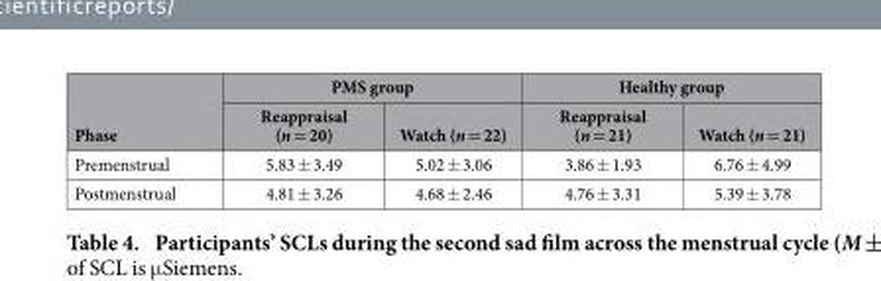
<table><thead><tr><td rowspan="2">Phase</td><td colspan="2">PMS group</td><td colspan="2">Healthy group</td></tr><tr><td>Reappraisal (n = 20)</td><td>Watch (n = 22)</td><td>Reappraisal (n = 21)</td><td>Watch (n = 21)</td></tr></thead><tbody><tr><td>Premenstrual</td><td>5.83 ± 3.49</td><td>5.02 ± 3.06</td><td>3.86 ± 1.93</td><td>6.76 ± 4.99</td></tr><tr><td>Postmenstrual</td><td>4.81 ± 3.26</td><td>4.68 ± 2.46</td><td>4.76 ± 3.31</td><td>5.39 ± 3.78</td></tr></tbody></table>